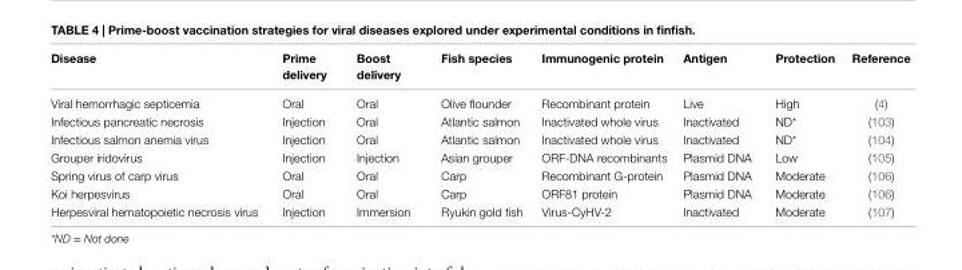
<table><thead><tr><td>Disease</td><td>Prime delivery</td><td>Boost delivery</td><td>Fish species</td><td>immunogenic protein</td><td>Antigen</td><td>Protection</td><td>Reference</td></tr></thead><tbody><tr><td>Viral hemorrhagic septicemia</td><td>Oral</td><td>Oral</td><td>Olive flounder</td><td>Recombinant protein</td><td>Live</td><td>High</td><td>(4)</td></tr><tr><td>Infectious pancreatic necrosis</td><td>Injection</td><td>Oral</td><td>Atlantic salmon</td><td>Inactivated whole virus</td><td>Inactivated</td><td>ND*</td><td>(103)</td></tr><tr><td>Infectious salmon anemia virus</td><td>Injection</td><td>Oral</td><td>Atlantic salmon</td><td>Inactivated whole virus</td><td>Inactivated</td><td>ND*</td><td>(104)</td></tr><tr><td>Grouper iridovirus</td><td>Injection</td><td>Injection</td><td>Asian grouper</td><td>ORF-DNA recombinants</td><td>Plasmid DNA</td><td>Low</td><td>(105)</td></tr><tr><td>Spring virus of carp virus</td><td>Oral</td><td>Oral</td><td>Carp</td><td>Recombinant G-protein</td><td>Plasmid DNA</td><td>Moderate</td><td>(106)</td></tr><tr><td>Koi herpesvirus</td><td>Oral</td><td>Oral</td><td>Carp</td><td>ORF81 protein</td><td>Plasmid DNA</td><td>Moderate</td><td>(106)</td></tr><tr><td>Herpesviral hematopoietic necrosis virus</td><td>Injection</td><td>Immersion</td><td>Ryukin gold fish</td><td>Virus-CyHV-2</td><td>Inactivated</td><td>Moderate</td><td>(107)</td></tr></tbody></table>